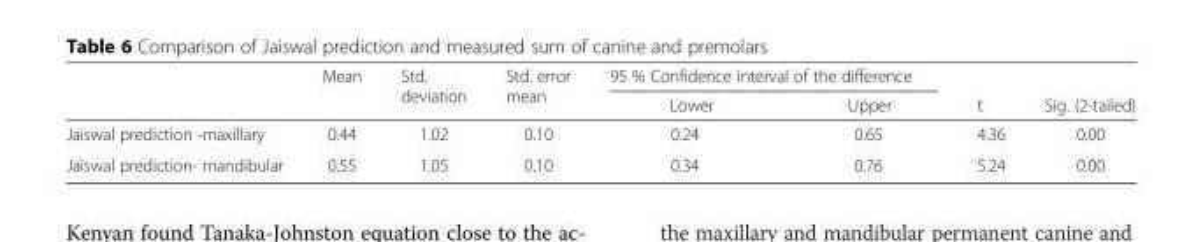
<table><thead><tr><td rowspan="2"></td><td rowspan="2">Mean</td><td rowspan="2">Std. deviation</td><td rowspan="2">Std. error mean</td><td colspan="2">95 % Confidence interval of the difference</td><td rowspan="2">t</td><td rowspan="2">Sig. (2-tailed)</td></tr><tr><td>Lower</td><td>Upper</td></tr></thead><tbody><tr><td>Jaiswal prediction -maxillary</td><td>0.44</td><td>1.02</td><td>0.10</td><td>0.24</td><td>0.65</td><td>4.36</td><td>0.00</td></tr><tr><td>Jaiswal prediction- mandibular</td><td>0.55</td><td>1.05</td><td>0.10</td><td>0.34</td><td>0.76</td><td>5.24</td><td>0.00</td></tr></tbody></table>